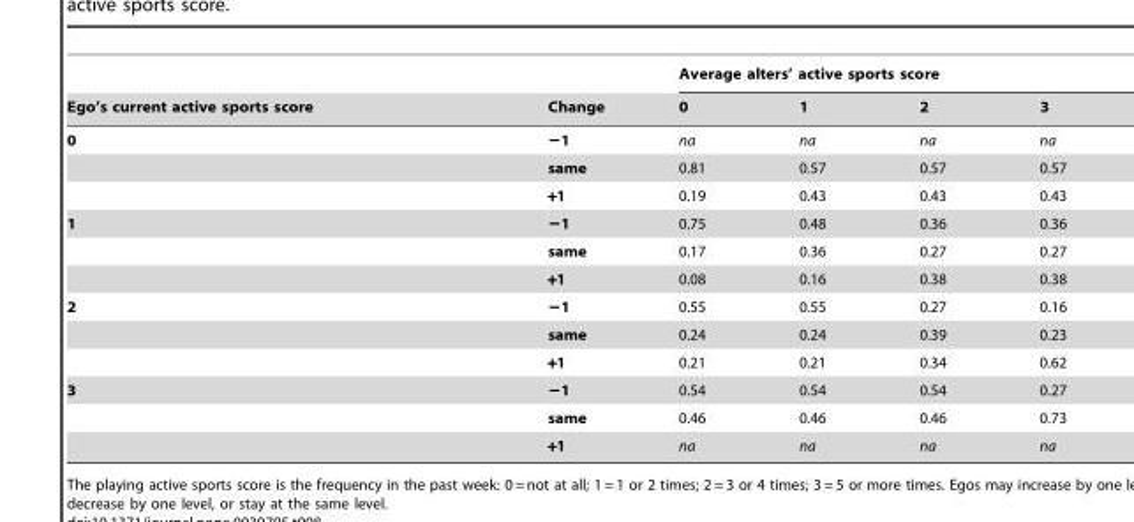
<table><thead><tr><td rowspan="2">Ego’s current active sports score</td><td rowspan="2">Change</td><td colspan="4">Average alters’ active sports score</td></tr><tr><td>0</td><td>1</td><td>2</td><td>3</td></tr></thead><tbody><tr><td rowspan="3">0</td><td>−1</td><td>na</td><td>na</td><td>na</td><td>na</td></tr><tr><td>same</td><td>0.81</td><td>0.57</td><td>0.57</td><td>0.57</td></tr><tr><td>+1</td><td>0.19</td><td>0.43</td><td>0.43</td><td>0.43</td></tr><tr><td rowspan="3">1</td><td>−1</td><td>0.75</td><td>0.48</td><td>0.36</td><td>0.36</td></tr><tr><td>same</td><td>0.17</td><td>0.36</td><td>0.27</td><td>0.27</td></tr><tr><td>+1</td><td>0.08</td><td>0.16</td><td>0.38</td><td>0.38</td></tr><tr><td rowspan="3">2</td><td>−1</td><td>0.55</td><td>0.55</td><td>0.27</td><td>0.16</td></tr><tr><td>same</td><td>0.24</td><td>0.24</td><td>0.39</td><td>0.23</td></tr><tr><td>+1</td><td>0.21</td><td>0.21</td><td>0.34</td><td>0.62</td></tr><tr><td rowspan="3">3</td><td>−1</td><td>0.54</td><td>0.54</td><td>0.54</td><td>0.27</td></tr><tr><td>same</td><td>0.46</td><td>0.46</td><td>0.46</td><td>0.73</td></tr><tr><td>+1</td><td>na</td><td>na</td><td>na</td><td>na</td></tr></tbody></table>